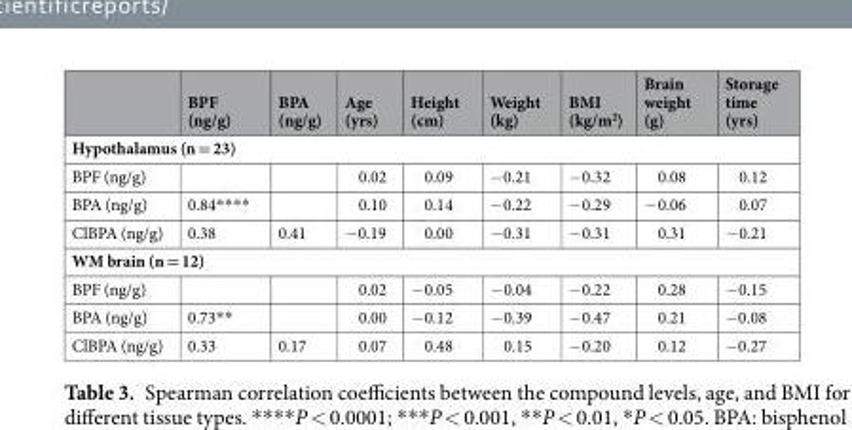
<table><thead><tr><td></td><td>BPF (ng/g)</td><td>BPA (ng/g)</td><td>Age (yrs)</td><td>Height (cm)</td><td>Weight (kg)</td><td>BMI (kg/m<sup>2</sup>)</td><td>Brain weight (g)</td><td>Storage time (yrs)</td></tr></thead><tbody><tr><td colspan="9">Hypothalamus (n = 23)</td></tr><tr><td>BPF (ng/g)</td><td></td><td></td><td>0.02</td><td>0.09</td><td>−0.21</td><td>−0.32</td><td>0.08</td><td>0.12</td></tr><tr><td>BPA (ng/g)</td><td>0.84****</td><td></td><td>0.10</td><td>0.14</td><td>−0.22</td><td>−0.29</td><td>−0.06</td><td>0.07</td></tr><tr><td>ClBPA (ng/g)</td><td>0.38</td><td>0.41</td><td>−0.19</td><td>0.00</td><td>−0.31</td><td>−0.31</td><td>0.31</td><td>−0.21</td></tr><tr><td colspan="9">WM brain (n = 12)</td></tr><tr><td>BPF (ng/g)</td><td></td><td></td><td>0.02</td><td>−0.05</td><td>−0.04</td><td>−0.22</td><td>0.28</td><td>−0.15</td></tr><tr><td>BPA (ng/g)</td><td>0.73**</td><td></td><td>0.00</td><td>−0.12</td><td>−0.39</td><td>−0.47</td><td>0.21</td><td>−0.08</td></tr><tr><td>ClBPA (ng/g)</td><td>0.33</td><td>0.17</td><td>0.07</td><td>0.48</td><td>0.15</td><td>−0.20</td><td>0.12</td><td>−0.27</td></tr></tbody></table>